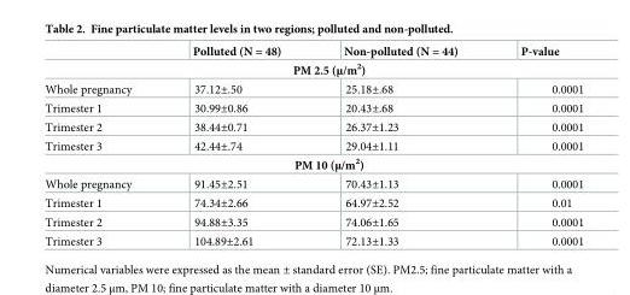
<table><thead><tr><td></td><td>Polluted (N = 48)</td><td>Non-polluted (N = 44)</td><td>P-value</td></tr></thead><tbody><tr><td colspan="4">PM 2.5 (μ/m<sup>2</sup>)</td></tr><tr><td>Whole pregnancy</td><td>37.12±.50</td><td>25.18±.68</td><td>0.0001</td></tr><tr><td>Trimester 1</td><td>30.99±0.86</td><td>20.43±.68</td><td>0.0001</td></tr><tr><td>Trimester 2</td><td>38.44±0.71</td><td>26.37±1.23</td><td>0.0001</td></tr><tr><td>Trimester 3</td><td>42.44±.74</td><td>29.04±1.11</td><td>0.0001</td></tr><tr><td colspan="4">PM 10 (μ/m<sup>2</sup>)</td></tr><tr><td>Whole pregnancy</td><td>91.45±2.51</td><td>70.43±1.13</td><td>0.0001</td></tr><tr><td>Trimester 1</td><td>74.34±2.66</td><td>64.97±2.52</td><td>0.01</td></tr><tr><td>Trimester 2</td><td>94.88±3.35</td><td>74.06±1.65</td><td>0.0001</td></tr><tr><td>Trimester 3</td><td>104.89±2.61</td><td>72.13±1.33</td><td>0.0001</td></tr></tbody></table>